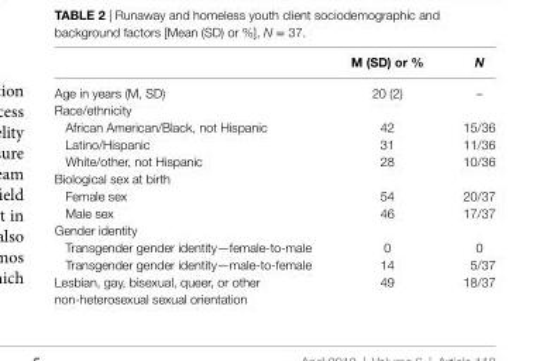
<table><thead><tr><td></td><td>M (sD) or %</td><td>N</td></tr></thead><tbody><tr><td>Age in years (M, SD)</td><td>20 (2)</td><td>–</td></tr><tr><td colspan="3">Race/ethnicity</td></tr><tr><td>African American/Black, not Hispanic</td><td>42</td><td>15/36</td></tr><tr><td>Latino/Hispanic</td><td>31</td><td>11/36</td></tr><tr><td>White/other, not Hispanic</td><td>28</td><td>10/36</td></tr><tr><td colspan="3">Biological sex at birth</td></tr><tr><td>Female sex</td><td>54</td><td>20/37</td></tr><tr><td>Male sex</td><td>46</td><td>17/37</td></tr><tr><td colspan="3">Gender identity</td></tr><tr><td>Transgender gender identity—female-to-male</td><td>0</td><td>0</td></tr><tr><td>Transgender gender identity—male-to-female</td><td>14</td><td>5/37</td></tr><tr><td>Lesbian, gay, bisexual, queer, or other non-heterosexual sexual orientation</td><td>49</td><td>18/37</td></tr></tbody></table>